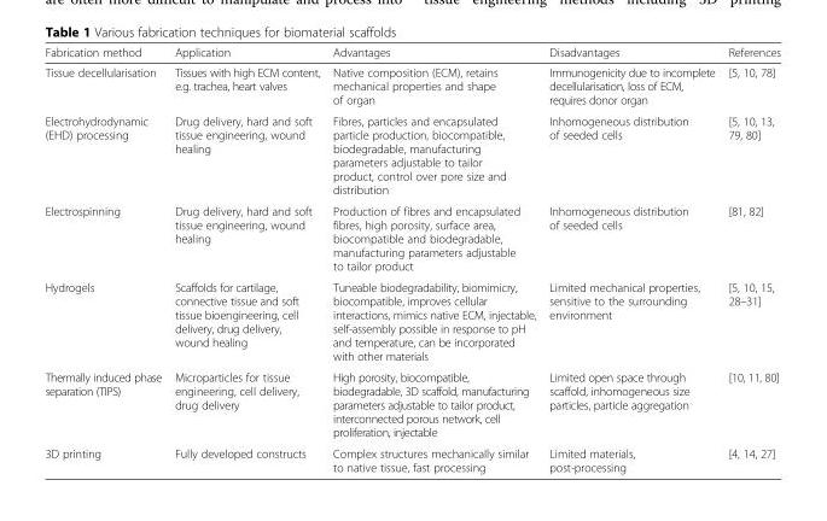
<table><thead><tr><td>Fabrication method</td><td>Application</td><td>Advantages</td><td>Disadvantages</td><td>References</td></tr></thead><tbody><tr><td>Tissue decellularisation</td><td>Tissues with high ECM content, e.g. trachea, heart valves</td><td>Native composition (ECM), retains mechanical properties and shape of organ</td><td>Immunogenicity due to incomplete decellularisation, loss of ECM, requires donor organ</td><td>[5, 10, 78]</td></tr><tr><td>Electrohydrodynamic (EHD) processing</td><td>Drug delivery, hard and soft tissue engineering, wound healing</td><td>Fibres, particles and encapsulated particle production, biocompatible, biodegradable, manufacturing parameters adjustable to tailor product, control over pore size and distribution</td><td>Inhomogeneous distribution of seeded cells</td><td>[5, 10, 13, 79, 80]</td></tr><tr><td>Electrospinning</td><td>Drug delivery, hard and soft tissue engineering, wound healing</td><td>Production of fibres and encapsulated fibres, high porosity, surface area, biocompatible and biodegradable, manufacturing parameters adjustable to tailor product</td><td>Inhomogeneous distribution of seeded cells</td><td>[81, 82]</td></tr><tr><td>Hydrogels</td><td>Scaffolds for cartilage, connective tissue and soft tissue bioengineering, cell delivery, drug delivery, wound healing</td><td>Tuneable biodegradability, biomimicry, biocompatible, improves cellular interactions, mimics native ECM, injectable, self-assembly possible in response to pH and temperature, can be incorporated with other materials</td><td>Limited mechanical properties, sensitive to the surrounding environment</td><td>[5, 10, 15, 28–31]</td></tr><tr><td>Thermally induced phase separation (TIPS)</td><td>Microparticles for tissue engineering, cell delivery, drug delivery</td><td>High porosity, biocompatible, biodegradable, 3D scaffold, manufacturing parameters adjustable to tailor product, interconnected porous network, cell proliferation, injectable</td><td>Limited open space through scaffold, inhomogeneous size particles, particle aggregation</td><td>[10, 11, 80]</td></tr><tr><td>3D printing</td><td>Fully developed constructs</td><td>Complex structures mechanically similar to native tissue, fast processing</td><td>Limited materials, post-processing</td><td>[4, 14, 27]</td></tr></tbody></table>